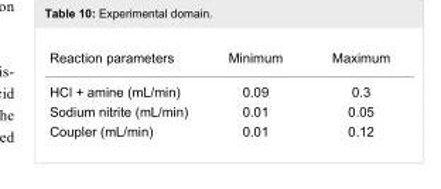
<table><tbody><tr><td>Reaction parameters</td><td>Minimum</td><td>Maximum</td></tr><tr><td>HCl + amine (mL/min)</td><td>0.09</td><td>0.3</td></tr><tr><td>Sodium nitrite (mL/min)</td><td>0.01</td><td>0.05</td></tr><tr><td>Coupler (mL/min)</td><td>0.01</td><td>0.12</td></tr></tbody></table>